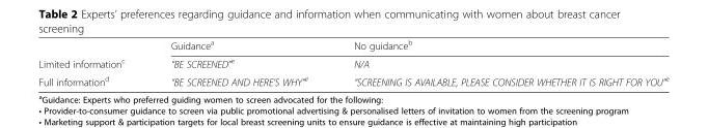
<table><thead><tr><td></td><td>Guidance<sup>a</sup></td><td>No guidance<sup>b</sup></td></tr></thead><tbody><tr><td>Limited information<sup>c</sup></td><td>“BE SCREENED”<sup>e</sup></td><td>N/A</td></tr><tr><td>Full information<sup>d</sup></td><td>“BE SCREENED AND HERE’S WHY”<sup>e</sup></td><td>“SCREENING IS AVAILABLE, PLEASE CONSIDER WHETHER IT IS RIGHT FOR YOU”<sup>e</sup></td></tr></tbody></table>